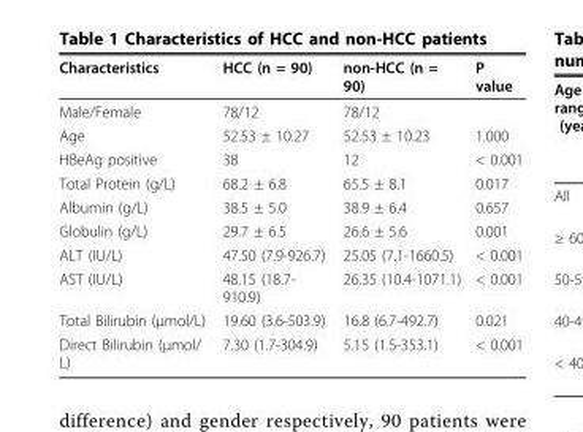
<table><tbody><tr><td>Characteristics</td><td>HCC (n = 90)</td><td>non-HCC (n = 90)</td><td>P value</td></tr><tr><td>Male/Female</td><td>78/12</td><td>78/12</td><td></td></tr><tr><td>Age</td><td>52.53 ± 10.27</td><td>52.53 ± 10.23</td><td>1.000</td></tr><tr><td>HBeAg positive</td><td>38</td><td>12</td><td>&lt; 0.001</td></tr><tr><td>Total Protein (g/L)</td><td>68.2 ± 6.8</td><td>65.5 ± 8.1</td><td>0.017</td></tr><tr><td>Albumin (g/L)</td><td>38.5 ± 5.0</td><td>38.9 ± 6.4</td><td>0.657</td></tr><tr><td>Globulin (g/L)</td><td>29.7 ± 6.5</td><td>26.6 ± 5.6</td><td>0.001</td></tr><tr><td>ALT (IU/L)</td><td>47.50 (7.9-926.7)</td><td>25.05 (7.1-1660.5)</td><td>&lt; 0.001</td></tr><tr><td>AST (IU/L)</td><td>48.15 (18.7- 910.9)</td><td>26.35 (10.4-1071.1)</td><td>&lt; 0.001</td></tr><tr><td>Total Bilirubin (μmol/L)</td><td>19.60 (3.6-503.9)</td><td>16.8 (6.7-492.7)</td><td>0.021</td></tr><tr><td>Direct Bilirubin (μmol/ L)</td><td>7.30 (1.7-304.9)</td><td>5.15 (1.5-353.1)</td><td>&lt; 0.001</td></tr></tbody></table>